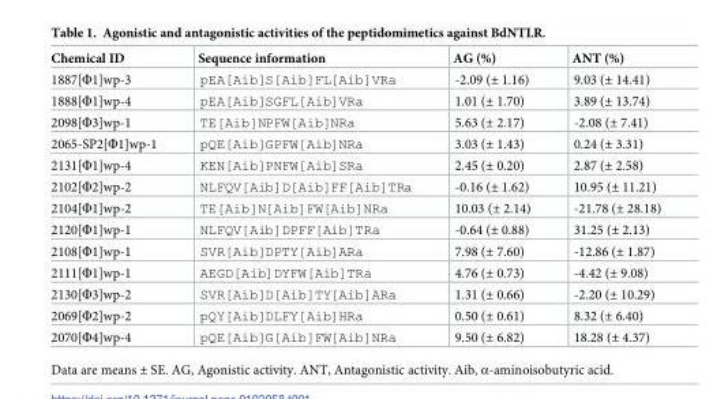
<table><thead><tr><td>Chemical ID</td><td>Sequence information</td><td>AG (%)</td><td>ANT (%)</td></tr></thead><tbody><tr><td>1887[Φ1]wp-3</td><td>pEA[Aib]S[Aib]FL[Aib]VRa</td><td>-2.09 (± 1.16)</td><td>9.03 (± 14.41)</td></tr><tr><td>1888[Φ1]wp-4</td><td>pEA[Aib]SGFL[Aib]VRa</td><td>1.01 (± 1.70)</td><td>3.89 (± 13.74)</td></tr><tr><td>2098[Φ3]wp-1</td><td>TE[Aib]NPFW[Aib]NRa</td><td>5.63 (± 2.17)</td><td>-2.08 (± 7.41)</td></tr><tr><td>2065-SP2[Φ1]wp-1</td><td>pQE[Aib]GPFW[Aib]NRa</td><td>3.03 (± 1.43)</td><td>0.24 (± 3.31)</td></tr><tr><td>2131[Φ1]wp-4</td><td>KEN[Aib]PNFW[Aib]SRa</td><td>2.45 (± 0.20)</td><td>2.87 (± 2.58)</td></tr><tr><td>2102[Φ2]wp-2</td><td>NLFQV[Aib]D[Aib]FF[Aib]TRa</td><td>-0.16 (± 1.62)</td><td>10.95 (± 11.21)</td></tr><tr><td>2104[Φ1]wp-2</td><td>TE[Aib]N[Aib]FW[Aib]NRa</td><td>10.03 (± 2.14)</td><td>-21.78 (± 28.18)</td></tr><tr><td>2120[Φ1]wp-1</td><td>NLFQV[Aib]DPFF[Aib]TRa</td><td>-0.64 (± 0.88)</td><td>31.25 (± 2.13)</td></tr><tr><td>2108[Φ1]wp-1</td><td>SVR[Aib]DPTY[Aib]ARa</td><td>7.98 (± 7.60)</td><td>-12.86 (± 1.87)</td></tr><tr><td>2111[Φ1]wp-1</td><td>AEGD[Aib]DYFW[Aib]TRa</td><td>4.76 (± 0.73)</td><td>-4.42 (± 9.08)</td></tr><tr><td>2130[Φ3]wp-2</td><td>SVR[Aib]D[Aib]TY[Aib]ARa</td><td>1.31 (± 0.66)</td><td>-2.20 (± 10.29)</td></tr><tr><td>2069[Φ2]wp-2</td><td>pQY[Aib]DLFY[Aib]HRa</td><td>0.50 (± 0.61)</td><td>8.32 (± 6.40)</td></tr><tr><td>2070[Φ4]wp-4</td><td>pQE[Aib]G[Aib]FW[Aib]NRa</td><td>9.50 (± 6.82)</td><td>18.28 (± 4.37)</td></tr></tbody></table>